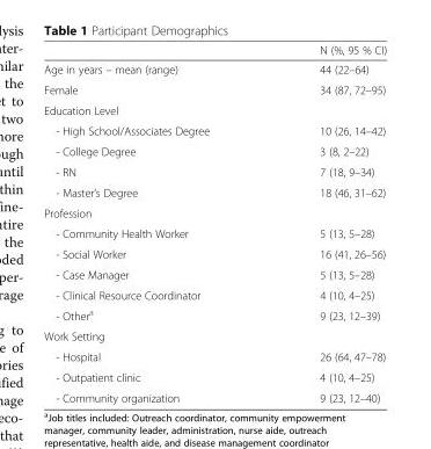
<table><thead><tr><td></td><td>N (%, 95 % CI)</td></tr></thead><tbody><tr><td>Age in years – mean (range)</td><td>44 (22–64)</td></tr><tr><td>Female</td><td>34 (87, 72–95)</td></tr><tr><td colspan="2">Education Level</td></tr><tr><td>- High School/Associates Degree</td><td>10 (26, 14–42)</td></tr><tr><td>- College Degree</td><td>3 (8, 2–22)</td></tr><tr><td>- RN</td><td>7 (18, 9–34)</td></tr><tr><td>- Master’s Degree</td><td>18 (46, 31–62)</td></tr><tr><td colspan="2">Profession</td></tr><tr><td>- Community Health Worker</td><td>5 (13, 5–28)</td></tr><tr><td>- Social Worker</td><td>16 (41, 26–56)</td></tr><tr><td>- Case Manager</td><td>5 (13, 5–28)</td></tr><tr><td>- Clinical Resource Coordinator</td><td>4 (10, 4–25)</td></tr><tr><td>- Other<sup>a</sup></td><td>9 (23, 12–39)</td></tr><tr><td colspan="2">Work Setting</td></tr><tr><td>- Hospital</td><td>26 (64, 47–78)</td></tr><tr><td>- Outpatient clinic</td><td>4 (10, 4–25)</td></tr><tr><td>- Community organization</td><td>9 (23, 12–40)</td></tr></tbody></table>